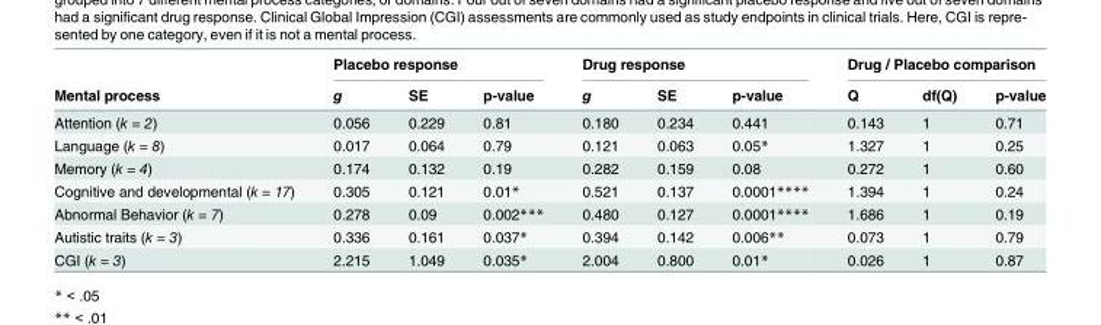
<table><thead><tr><td rowspan="2">Mental process</td><td colspan="3">Placebo response</td><td colspan="3">Drug response</td><td colspan="3">Drug / Placebo comparison</td></tr><tr><td>g</td><td>SE</td><td>p-value</td><td>g</td><td>SE</td><td>p-value</td><td>Q</td><td>df(Q)</td><td>p-value</td></tr></thead><tbody><tr><td>Attention (k = 2)</td><td>0.056</td><td>0.229</td><td>0.81</td><td>0.180</td><td>0.234</td><td>0.441</td><td>0.143</td><td>1</td><td>0.71</td></tr><tr><td>Language (k = 8)</td><td>0.017</td><td>0.064</td><td>0.79</td><td>0.121</td><td>0.063</td><td>0.05*</td><td>1.327</td><td>1</td><td>0.25</td></tr><tr><td>Memory (k = 4)</td><td>0.174</td><td>0.132</td><td>0.19</td><td>0.282</td><td>0.159</td><td>0.08</td><td>0.272</td><td>1</td><td>0.60</td></tr><tr><td>Cognitive and developmental (k = 17)</td><td>0.305</td><td>0.121</td><td>0.01*</td><td>0.521</td><td>0.137</td><td>0.0001****</td><td>1.394</td><td>1</td><td>0.24</td></tr><tr><td>Abnormal Behavior (k = 7)</td><td>0.278</td><td>0.09</td><td>0.002***</td><td>0.480</td><td>0.127</td><td>0.0001****</td><td>1.686</td><td>1</td><td>0.19</td></tr><tr><td>Autistic traits (k = 3)</td><td>0.336</td><td>0.161</td><td>0.037*</td><td>0.394</td><td>0.142</td><td>0.006**</td><td>0.073</td><td>1</td><td>0.79</td></tr><tr><td>CGI (k = 3)</td><td>2.215</td><td>1.049</td><td>0.035*</td><td>2.004</td><td>0.800</td><td>0.01*</td><td>0.026</td><td>1</td><td>0.87</td></tr></tbody></table>